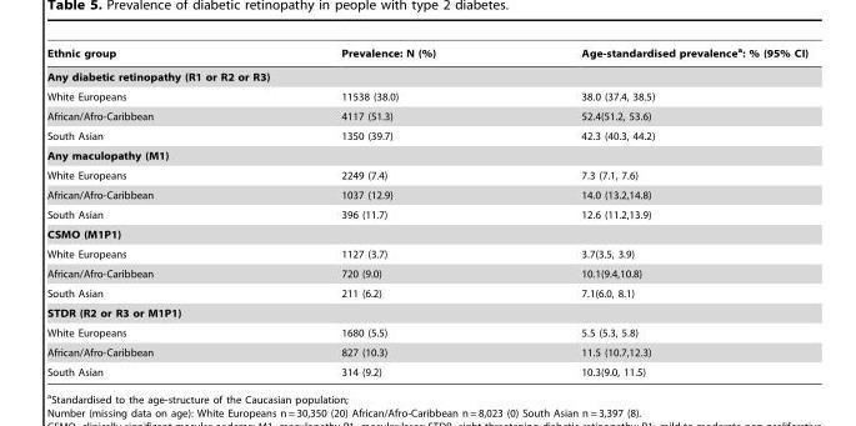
<table><thead><tr><td>Ethnic group</td><td>Prevalence: N (%)</td><td>Age-standardised prevalence<sup>a</sup>: % (95% CI)</td></tr></thead><tbody><tr><td colspan="3">Any diabetic retinopathy (R1 or R2 or R3)</td></tr><tr><td>White Europeans</td><td>11538 (38.0)</td><td>38.0 (37.4, 38.5)</td></tr><tr><td>African/Afro-Caribbean</td><td>4117 (51.3)</td><td>52.4(51.2, 53.6)</td></tr><tr><td>South Asian</td><td>1350 (39.7)</td><td>42.3 (40.3, 44.2)</td></tr><tr><td colspan="3">Any maculopathy (M1)</td></tr><tr><td>White Europeans</td><td>2249 (7.4)</td><td>7.3 (7.1, 7.6)</td></tr><tr><td>African/Afro-Caribbean</td><td>1037 (12.9)</td><td>14.0 (13.2,14.8)</td></tr><tr><td>South Asian</td><td>396 (11.7)</td><td>12.6 (11.2,13.9)</td></tr><tr><td colspan="3">CSMO (M1P1)</td></tr><tr><td>White Europeans</td><td>1127 (3.7)</td><td>3.7(3.5, 3.9)</td></tr><tr><td>African/Afro-Caribbean</td><td>720 (9.0)</td><td>10.1(9.4,10.8)</td></tr><tr><td>South Asian</td><td>211 (6.2)</td><td>7.1(6.0, 8.1)</td></tr><tr><td colspan="3">STDR (R2 or R3 or M1P1)</td></tr><tr><td>White Europeans</td><td>1680 (5.5)</td><td>5.5 (5.3, 5.8)</td></tr><tr><td>African/Afro-Caribbean</td><td>827 (10.3)</td><td>11.5 (10.7,12.3)</td></tr><tr><td>South Asian</td><td>314 (9.2)</td><td>10.3(9.0, 11.5)</td></tr></tbody></table>